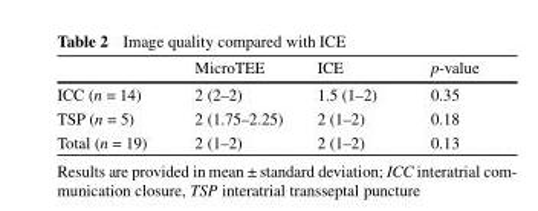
<table><thead><tr><td></td><td>MicroTEE</td><td>ICE</td><td>p-value</td></tr></thead><tbody><tr><td>ICC (n = 14)</td><td>2 (2–2)</td><td>1.5 (1–2)</td><td>0.35</td></tr><tr><td>TSP (n = 5)</td><td>2 (1.75–2.25)</td><td>2 (1–2)</td><td>0.18</td></tr><tr><td>Total (n = 19)</td><td>2 (1–2)</td><td>2 (1–2)</td><td>0.13</td></tr></tbody></table>